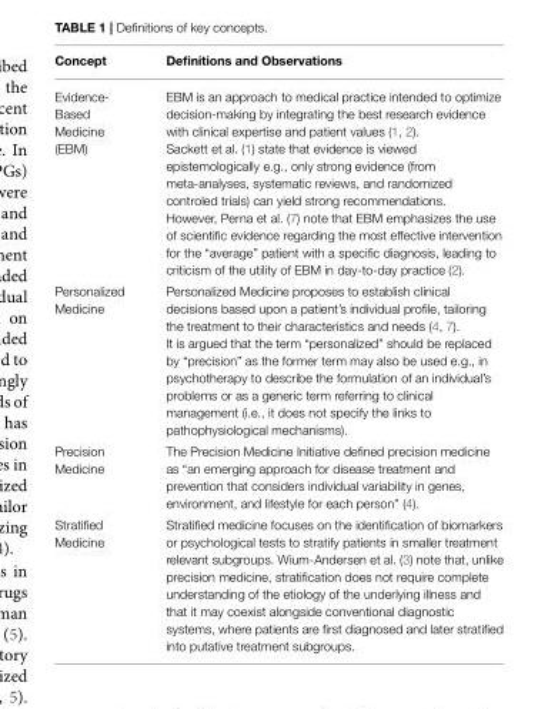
<table><thead><tr><td>Concept</td><td>Definitions and Observations</td></tr></thead><tbody><tr><td>Evidence- Based Medicine (EBM)</td><td>EBM is an approach to medical practice intended to optimize decision-making by integrating the best research evidence with clinical expertise and patient values (1, 2). Sackett et al. (1) state that evidence is viewed epistemologically e.g., only strong evidence (from meta-analyses, systematic reviews, and randomized controled trials) can yield strong recommendations. However, Perna et al. (7) note that EBM emphasizes the use of scientific evidence regarding the most effective intervention for the “average” patient with a specific diagnosis, leading to criticism of the utility of EBM in day-to-day practice (2).</td></tr><tr><td>Personalized Medicine</td><td>Personalized Medicine proposes to establish clinical decisions based upon a patient’s individual profile, tailoring the treatment to their characteristics and needs (4, 7). It is argued that the term “personalized” should be replaced by “precision” as the former term may also be used e.g., in psychotherapy to describe the formulation of an individual’s problems or as a generic term referring to clinical management (i.e., it does not specify the links to pathophysiological mechanisms).</td></tr><tr><td>Precision Medicine</td><td>The Precision Medicine Initiative defined precision medicine as “an emerging approach for disease treatment and prevention that considers individual variability in genes, environment, and lifestyle for each person” (4).</td></tr><tr><td>Stratified Medicine</td><td>Stratified medicine focuses on the identification of biomarkers or psychological tests to stratify patients in smaller treatment relevant subgroups. Wium-Andersen et al. (3) note that, unlike precision medicine, stratification does not require complete understanding of the etiology of the underlying illness and that it may coexist alongside conventional diagnostic systems, where patients are first diagnosed and later stratified into putative treatment subgroups.</td></tr></tbody></table>